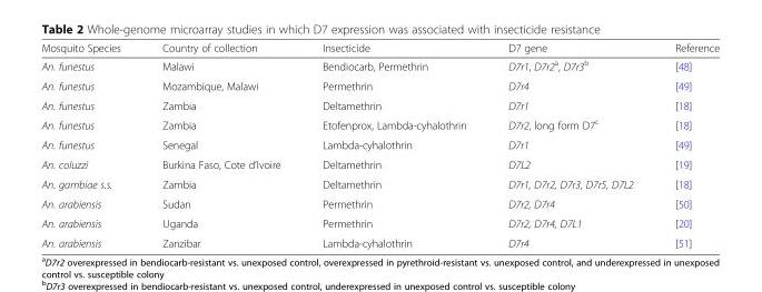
<table><thead><tr><td>Mosquito Species</td><td>Country of collection</td><td>Insecticide</td><td>D7 gene</td><td>Reference</td></tr></thead><tbody><tr><td>An. funestus</td><td>Malawi</td><td>Bendiocarb, Permethrin</td><td>D7r1, D7r2<sup>a</sup>, D7r3<sup>b</sup></td><td>[48]</td></tr><tr><td>An. funestus</td><td>Mozambique, Malawi</td><td>Permethrin</td><td>D7r4</td><td>[49]</td></tr><tr><td>An. funestus</td><td>Zambia</td><td>Deltamethrin</td><td>D7r1</td><td>[18]</td></tr><tr><td>An. funestus</td><td>Zambia</td><td>Etofenprox, Lambda-cyhalothrin</td><td>D7r2, long form D7<sup>c</sup></td><td>[18]</td></tr><tr><td>An. funestus</td><td>Senegal</td><td>Lambda-cyhalothrin</td><td>D7r1</td><td>[49]</td></tr><tr><td>An. coluzzi</td><td>Burkina Faso, Cote d’Ivoire</td><td>Deltamethrin</td><td>D7L2</td><td>[19]</td></tr><tr><td>An. gambiae s.s.</td><td>Zambia</td><td>Deltamethrin</td><td>D7r1, D7r2, D7r3, D7r5, D7L2</td><td>[18]</td></tr><tr><td>An. arabiensis</td><td>Sudan</td><td>Permethrin</td><td>D7r2, D7r4</td><td>[50]</td></tr><tr><td>An. arabiensis</td><td>Uganda</td><td>Permethrin</td><td>D7r2, D7r4, D7L1</td><td>[20]</td></tr><tr><td>An. arabiensis</td><td>Zanzibar</td><td>Lambda-cyhalothrin</td><td>D7r4</td><td>[51]</td></tr></tbody></table>